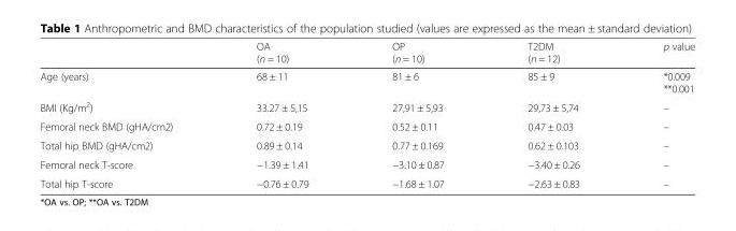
<table><thead><tr><td></td><td>OA (n = 10)</td><td>OP (n = 10)</td><td>T2DM (n = 12)</td><td>p value</td></tr></thead><tbody><tr><td>Age (years)</td><td>68 ± 11</td><td>81 ± 6</td><td>85 ± 9</td><td>*0.009 **0.001</td></tr><tr><td>BMI (Kg/m<sup>2</sup>)</td><td>33.27 ± 5,15</td><td>27,91 ± 5,93</td><td>29,73 ± 5,74</td><td>–</td></tr><tr><td>Femoral neck BMD (gHA/cm2)</td><td>0.72 ± 0.19</td><td>0.52 ± 0.11</td><td>0.47 ± 0.03</td><td>–</td></tr><tr><td>Total hip BMD (gHA/cm2)</td><td>0.89 ± 0.14</td><td>0.77 ± 0.169</td><td>0.62 ± 0.103</td><td>–</td></tr><tr><td>Femoral neck T-score</td><td>−1.39 ± 1.41</td><td>−3.10 ± 0.87</td><td>−3.40 ± 0.26</td><td>–</td></tr><tr><td>Total hip T-score</td><td>−0.76 ± 0.79</td><td>−1.68 ± 1.07</td><td>−2.63 ± 0.83</td><td>–</td></tr></tbody></table>